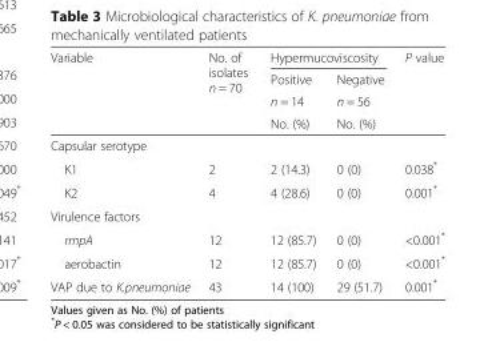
<table><thead><tr><td rowspan="4">Variable</td><td rowspan="4">No. of isolates n = 70</td><td colspan="2">Hypermucoviscosity</td><td rowspan="4">P value</td></tr><tr><td rowspan="3">Positive n = 14 No. (%)</td><td rowspan="3">Negative n = 56 No. (%)</td></tr><tr></tr><tr></tr></thead><tbody><tr><td colspan="5">Capsular serotype</td></tr><tr><td>K1</td><td>2</td><td>2 (14.3)</td><td>0 (0)</td><td>0.038*</td></tr><tr><td>K2</td><td>4</td><td>4 (28.6)</td><td>0 (0)</td><td>0.001*</td></tr><tr><td colspan="5">Virulence factors</td></tr><tr><td>rmpA</td><td>12</td><td>12 (85.7)</td><td>0 (0)</td><td>&lt;0.001*</td></tr><tr><td>aerobactin</td><td>12</td><td>12 (85.7)</td><td>0 (0)</td><td>&lt;0.001*</td></tr><tr><td>VAP due to K.pneumoniae</td><td>43</td><td>14 (100)</td><td>29 (51.7)</td><td>0.001*</td></tr></tbody></table>